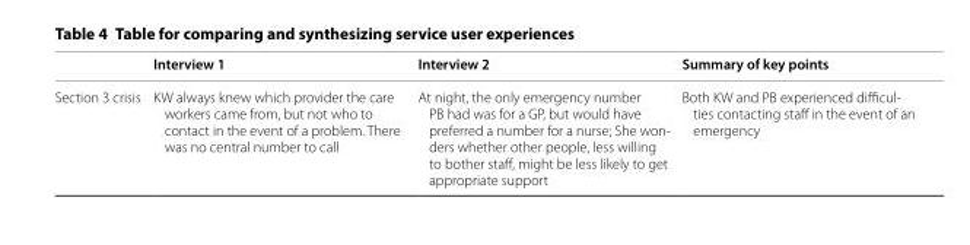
<table><thead><tr><td></td><td>Interview 1</td><td>Interview 2</td><td>Summary of key points</td></tr></thead><tbody><tr><td>Section 3 crisis</td><td>KW always knew which provider the care workers came from, but not who to contact in the event of a problem. There was no central number to call</td><td>At night, the only emergency number PB had was for a GP, but would have preferred a number for a nurse; She won- ders whether other people, less willing to bother staff, might be less likely to get appropriate support</td><td>Both KW and PB experienced difficul- ties contacting staff in the event of an emergency</td></tr></tbody></table>